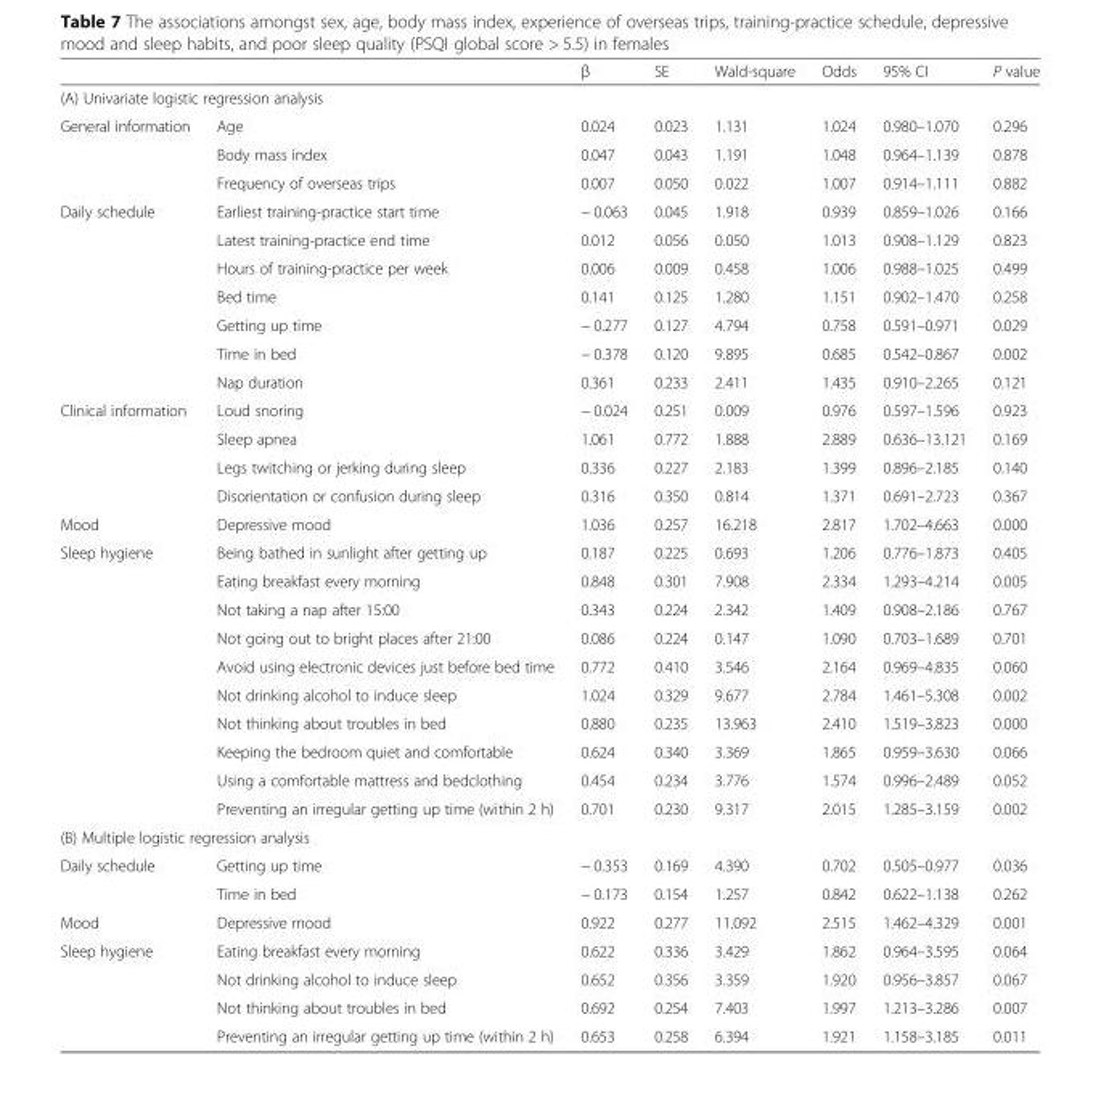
<table><thead><tr><td></td><td></td><td>β</td><td>SE</td><td>Wald-square</td><td>Odds</td><td>95% CI</td><td>P value</td></tr></thead><tbody><tr><td colspan="8">(A) Univariate logistic regression analysis</td></tr><tr><td rowspan="3">General information</td><td>Age</td><td>0.024</td><td>0.023</td><td>1.131</td><td>1.024</td><td>0.980–1.070</td><td>0.296</td></tr><tr><td>Body mass index</td><td>0.047</td><td>0.043</td><td>1.191</td><td>1.048</td><td>0.964–1.139</td><td>0.878</td></tr><tr><td>Frequency of overseas trips</td><td>0.007</td><td>0.050</td><td>0.022</td><td>1.007</td><td>0.914–1.111</td><td>0.882</td></tr><tr><td rowspan="7">Daily schedule</td><td>Earliest training-practice start time</td><td>− 0.063</td><td>0.045</td><td>1.918</td><td>0.939</td><td>0.859–1.026</td><td>0.166</td></tr><tr><td>Latest training-practice end time</td><td>0.012</td><td>0.056</td><td>0.050</td><td>1.013</td><td>0.908–1.129</td><td>0.823</td></tr><tr><td>Hours of training-practice per week</td><td>0.006</td><td>0.009</td><td>0.458</td><td>1.006</td><td>0.988–1.025</td><td>0.499</td></tr><tr><td>Bed time</td><td>0.141</td><td>0.125</td><td>1.280</td><td>1.151</td><td>0.902–1.470</td><td>0.258</td></tr><tr><td>Getting up time</td><td>− 0.277</td><td>0.127</td><td>4.794</td><td>0.758</td><td>0.591–0.971</td><td>0.029</td></tr><tr><td>Time in bed</td><td>− 0.378</td><td>0.120</td><td>9.895</td><td>0.685</td><td>0.542–0.867</td><td>0.002</td></tr><tr><td>Nap duration</td><td>0.361</td><td>0.233</td><td>2.411</td><td>1.435</td><td>0.910–2.265</td><td>0.121</td></tr><tr><td rowspan="4">Clinical information</td><td>Loud snoring</td><td>− 0.024</td><td>0.251</td><td>0.009</td><td>0.976</td><td>0.597–1.596</td><td>0.923</td></tr><tr><td>Sleep apnea</td><td>1.061</td><td>0.772</td><td>1.888</td><td>2.889</td><td>0.636–13.121</td><td>0.169</td></tr><tr><td>Legs twitching or jerking during sleep</td><td>0.336</td><td>0.227</td><td>2.183</td><td>1.399</td><td>0.896–2.185</td><td>0.140</td></tr><tr><td>Disorientation or confusion during sleep</td><td>0.316</td><td>0.350</td><td>0.814</td><td>1.371</td><td>0.691–2.723</td><td>0.367</td></tr><tr><td>Mood</td><td>Depressive mood</td><td>1.036</td><td>0.257</td><td>16.218</td><td>2.817</td><td>1.702–4.663</td><td>0.000</td></tr><tr><td rowspan="10">Sleep hygiene</td><td>Being bathed in sunlight after getting up</td><td>0.187</td><td>0.225</td><td>0.693</td><td>1.206</td><td>0.776–1.873</td><td>0.405</td></tr><tr><td>Eating breakfast every morning</td><td>0.848</td><td>0.301</td><td>7.908</td><td>2.334</td><td>1.293–4.214</td><td>0.005</td></tr><tr><td>Not taking a nap after 15:00</td><td>0.343</td><td>0.224</td><td>2.342</td><td>1.409</td><td>0.908–2.186</td><td>0.767</td></tr><tr><td>Not going out to bright places after 21:00</td><td>0.086</td><td>0.224</td><td>0.147</td><td>1.090</td><td>0.703–1.689</td><td>0.701</td></tr><tr><td>Avoid using electronic devices just before bed time</td><td>0.772</td><td>0.410</td><td>3.546</td><td>2.164</td><td>0.969–4.835</td><td>0.060</td></tr><tr><td>Not drinking alcohol to induce sleep</td><td>1.024</td><td>0.329</td><td>9.677</td><td>2.784</td><td>1.461–5.308</td><td>0.002</td></tr><tr><td>Not thinking about troubles in bed</td><td>0.880</td><td>0.235</td><td>13.963</td><td>2.410</td><td>1.519–3.823</td><td>0.000</td></tr><tr><td>Keeping the bedroom quiet and comfortable</td><td>0.624</td><td>0.340</td><td>3.369</td><td>1.865</td><td>0.959–3.630</td><td>0.066</td></tr><tr><td>Using a comfortable mattress and bedclothing</td><td>0.454</td><td>0.234</td><td>3.776</td><td>1.574</td><td>0.996–2.489</td><td>0.052</td></tr><tr><td>Preventing an irregular getting up time (within 2 h)</td><td>0.701</td><td>0.230</td><td>9.317</td><td>2.015</td><td>1.285–3.159</td><td>0.002</td></tr><tr><td colspan="8">(B) Multiple logistic regression analysis</td></tr><tr><td rowspan="2">Daily schedule</td><td>Getting up time</td><td>− 0.353</td><td>0.169</td><td>4.390</td><td>0.702</td><td>0.505–0.977</td><td>0.036</td></tr><tr><td>Time in bed</td><td>− 0.173</td><td>0.154</td><td>1.257</td><td>0.842</td><td>0.622–1.138</td><td>0.262</td></tr><tr><td>Mood</td><td>Depressive mood</td><td>0.922</td><td>0.277</td><td>11.092</td><td>2.515</td><td>1.462–4.329</td><td>0.001</td></tr><tr><td rowspan="4">Sleep hygiene</td><td>Eating breakfast every morning</td><td>0.622</td><td>0.336</td><td>3.429</td><td>1.862</td><td>0.964–3.595</td><td>0.064</td></tr><tr><td>Not drinking alcohol to induce sleep</td><td>0.652</td><td>0.356</td><td>3.359</td><td>1.920</td><td>0.956–3.857</td><td>0.067</td></tr><tr><td>Not thinking about troubles in bed</td><td>0.692</td><td>0.254</td><td>7.403</td><td>1.997</td><td>1.213–3.286</td><td>0.007</td></tr><tr><td>Preventing an irregular getting up time (within 2 h)</td><td>0.653</td><td>0.258</td><td>6.394</td><td>1.921</td><td>1.158–3.185</td><td>0.011</td></tr></tbody></table>